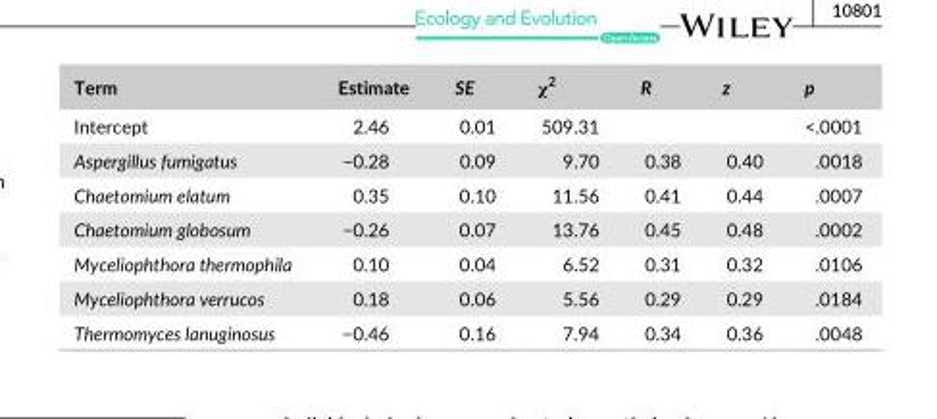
<table><thead><tr><td>Term</td><td>Estimate</td><td>SE</td><td>χ<sup>2</sup></td><td>R</td><td>z</td><td>p</td></tr></thead><tbody><tr><td>Intercept</td><td>2.46</td><td>0.01</td><td>509.31</td><td></td><td></td><td>&lt;.0001</td></tr><tr><td>Aspergillus fumigatus</td><td>−0.28</td><td>0.09</td><td>9.70</td><td>0.38</td><td>0.40</td><td>.0018</td></tr><tr><td>Chaetomium elatum</td><td>0.35</td><td>0.10</td><td>11.56</td><td>0.41</td><td>0.44</td><td>.0007</td></tr><tr><td>Chaetomium globosum</td><td>−0.26</td><td>0.07</td><td>13.76</td><td>0.45</td><td>0.48</td><td>.0002</td></tr><tr><td>Myceliophthora thermophila</td><td>0.10</td><td>0.04</td><td>6.52</td><td>0.31</td><td>0.32</td><td>.0106</td></tr><tr><td>Myceliophthora verrucos</td><td>0.18</td><td>0.06</td><td>5.56</td><td>0.29</td><td>0.29</td><td>.0184</td></tr><tr><td>Thermomyces lanuginosus</td><td>−0.46</td><td>0.16</td><td>7.94</td><td>0.34</td><td>0.36</td><td>.0048</td></tr></tbody></table>